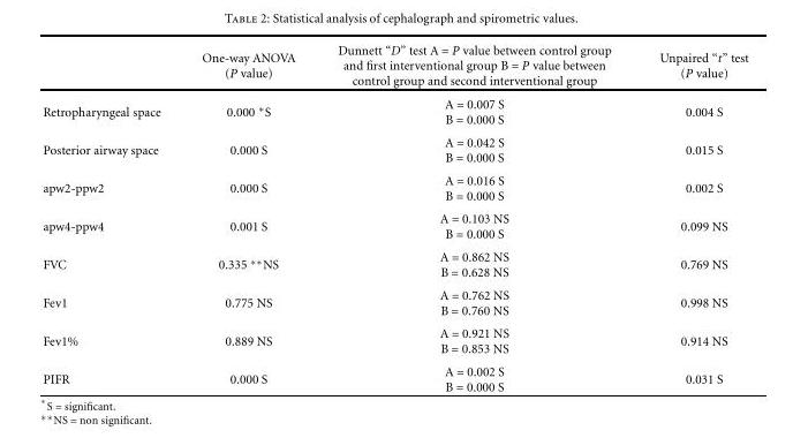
<table><thead><tr><td></td><td>One-way ANOVA (P value)</td><td>Dunnett “D” test A = P value between control group and first interventional group B = P value between control group and second interventional group</td><td>Unpaired “t” test (P value)</td></tr></thead><tbody><tr><td>Retropharyngeal space</td><td>0.000 ∗S</td><td>A = 0.007 S B = 0.000 S</td><td>0.004 S</td></tr><tr><td>Posterior airway space</td><td>0.000 S</td><td>A = 0.042 S B = 0.000 S</td><td>0.015 S</td></tr><tr><td>apw2-ppw2</td><td>0.000 S</td><td>A = 0.016 S B = 0.000 S</td><td>0.002 S</td></tr><tr><td>apw4-ppw4</td><td>0.001 S</td><td>A = 0.103 NS B = 0.000 S</td><td>0.099 NS</td></tr><tr><td>FVC</td><td>0.335 ∗∗NS</td><td>A = 0.862 NS B = 0.628 NS</td><td>0.769 NS</td></tr><tr><td>Fev1</td><td>0.775 NS</td><td>A = 0.762 NS B = 0.760 NS</td><td>0.998 NS</td></tr><tr><td>Fev1%</td><td>0.889 NS</td><td>A = 0.921 NS B = 0.853 NS</td><td>0.914 NS</td></tr><tr><td>PIFR</td><td>0.000 S</td><td>A = 0.002 S B = 0.000 S</td><td>0.031 S</td></tr></tbody></table>